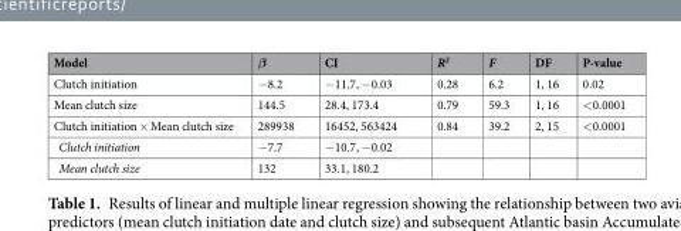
<table><thead><tr><td>Model</td><td>β</td><td>CI</td><td>R<sup>2</sup></td><td>F</td><td>DF</td><td>P-value</td></tr></thead><tbody><tr><td>Clutch initiation</td><td>−8.2</td><td>−11.7, −0.03</td><td>0.28</td><td>6.2</td><td>1, 16</td><td>0.02</td></tr><tr><td>Mean clutch size</td><td>144.5</td><td>28.4, 173.4</td><td>0.79</td><td>59.3</td><td>1, 16</td><td>&lt;0.0001</td></tr><tr><td>Clutch initiation × Mean clutch size</td><td>289938</td><td>16452, 563424</td><td>0.84</td><td>39.2</td><td>2, 15</td><td>&lt;0.0001</td></tr><tr><td>Clutch initiation</td><td>−7.7</td><td>−10.7, −0.02</td><td></td><td></td><td></td><td></td></tr><tr><td>Mean clutch size</td><td>132</td><td>33.1, 180.2</td><td></td><td></td><td></td><td></td></tr></tbody></table>